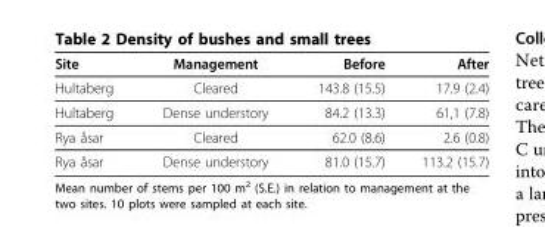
<table><thead><tr><td>Site</td><td>Management</td><td>Before</td><td>After</td></tr></thead><tbody><tr><td>Hultaberg</td><td>Cleared</td><td>143.8 (15.5)</td><td>17.9 (2.4)</td></tr><tr><td>Hultaberg</td><td>Dense understory</td><td>84.2 (13.3)</td><td>61,1 (7.8)</td></tr><tr><td>Rya åsar</td><td>Cleared</td><td>62.0 (8.6)</td><td>2.6 (0.8)</td></tr><tr><td>Rya åsar</td><td>Dense understory</td><td>81.0 (15.7)</td><td>113.2 (15.7)</td></tr></tbody></table>